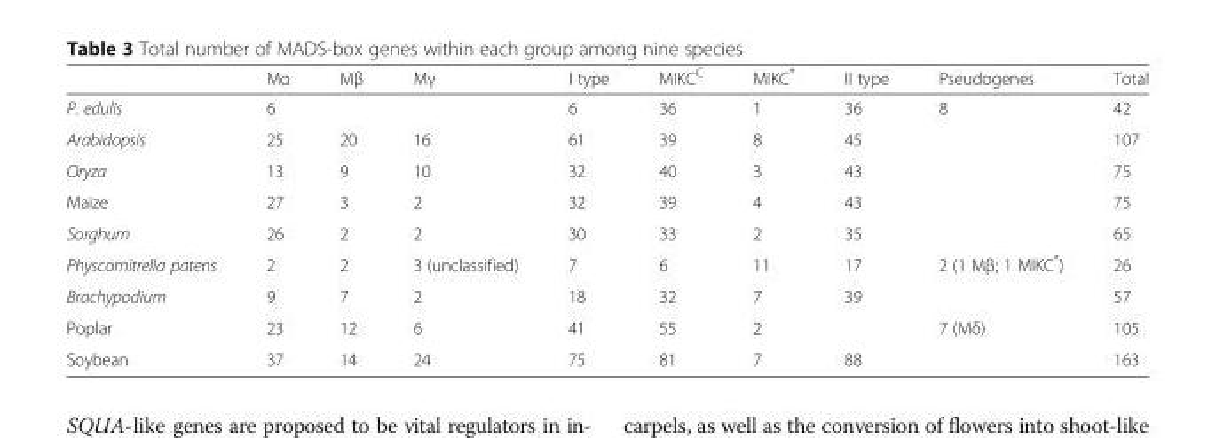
<table><thead><tr><td></td><td>Mα</td><td>Mβ</td><td>Mγ</td><td>I type</td><td>MIKC<sup>C</sup></td><td>MIKC*</td><td>II type</td><td>Pseudogenes</td><td>Total</td></tr></thead><tbody><tr><td>P. edulis</td><td>6</td><td></td><td></td><td>6</td><td>36</td><td>1</td><td>36</td><td>8</td><td>42</td></tr><tr><td>Arabidopsis</td><td>25</td><td>20</td><td>16</td><td>61</td><td>39</td><td>8</td><td>45</td><td></td><td>107</td></tr><tr><td>Oryza</td><td>13</td><td>9</td><td>10</td><td>32</td><td>40</td><td>3</td><td>43</td><td></td><td>75</td></tr><tr><td>Maize</td><td>27</td><td>3</td><td>2</td><td>32</td><td>39</td><td>4</td><td>43</td><td></td><td>75</td></tr><tr><td>Sorghum</td><td>26</td><td>2</td><td>2</td><td>30</td><td>33</td><td>2</td><td>35</td><td></td><td>65</td></tr><tr><td>Physcomitrella patens</td><td>2</td><td>2</td><td>3 (unclassified)</td><td>7</td><td>6</td><td>11</td><td>17</td><td>2 (1 Mβ; 1 MIKC*)</td><td>26</td></tr><tr><td>Brachypodium</td><td>9</td><td>7</td><td>2</td><td>18</td><td>32</td><td>7</td><td>39</td><td></td><td>57</td></tr><tr><td>Poplar</td><td>23</td><td>12</td><td>6</td><td>41</td><td>55</td><td>2</td><td></td><td>7 (Mδ)</td><td>105</td></tr><tr><td>Soybean</td><td>37</td><td>14</td><td>24</td><td>75</td><td>81</td><td>7</td><td>88</td><td></td><td>163</td></tr></tbody></table>